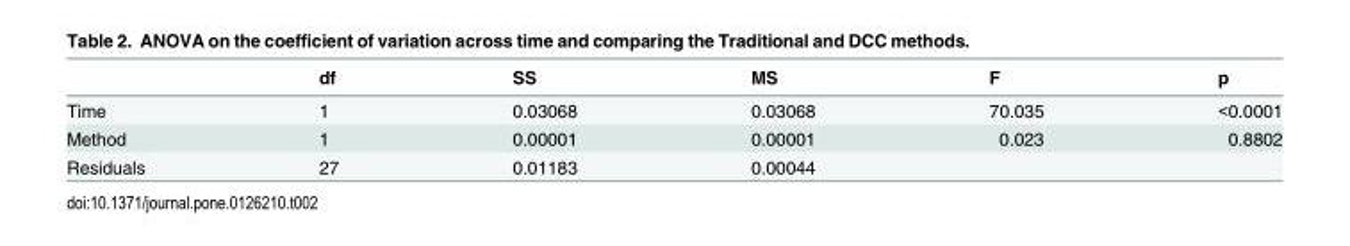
<table><thead><tr><td></td><td>df</td><td>SS</td><td>MS</td><td>F</td><td>p</td></tr></thead><tbody><tr><td>Time</td><td>1</td><td>0.03068</td><td>0.03068</td><td>70.035</td><td>&lt;0.0001</td></tr><tr><td>Method</td><td>1</td><td>0.00001</td><td>0.00001</td><td>0.023</td><td>0.8802</td></tr><tr><td>Residuals</td><td>27</td><td>0.01183</td><td>0.00044</td><td></td><td></td></tr></tbody></table>